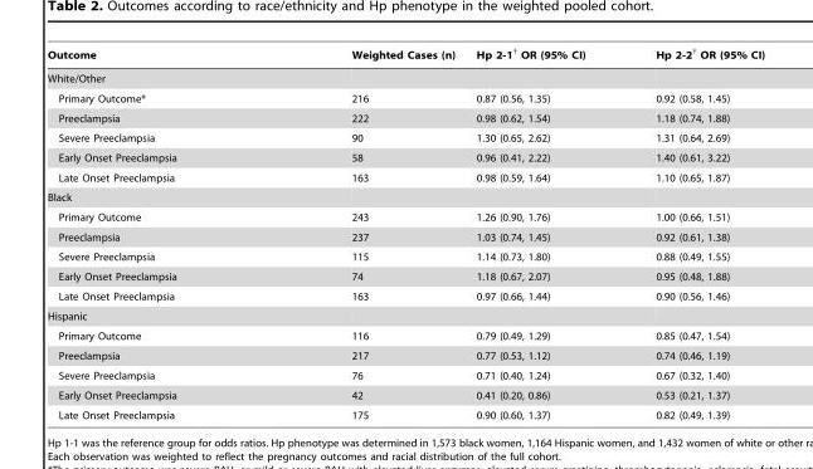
<table><thead><tr><td>Outcome</td><td>Weighted Cases (n)</td><td>Hp 2-1† OR (95% CI)</td><td>Hp 2-2† OR (95% CI)</td></tr></thead><tbody><tr><td colspan="4">White/Other</td></tr><tr><td>Primary Outcome*</td><td>216</td><td>0.87 (0.56, 1.35)</td><td>0.92 (0.58, 1.45)</td></tr><tr><td>Preeclampsia</td><td>222</td><td>0.98 (0.62, 1.54)</td><td>1.18 (0.74, 1.88)</td></tr><tr><td>Severe Preeclampsia</td><td>90</td><td>1.30 (0.65, 2.62)</td><td>1.31 (0.64, 2.69)</td></tr><tr><td>Early Onset Preeclampsia</td><td>58</td><td>0.96 (0.41, 2.22)</td><td>1.40 (0.61, 3.22)</td></tr><tr><td>Late Onset Preeclampsia</td><td>163</td><td>0.98 (0.59, 1.64)</td><td>1.10 (0.65, 1.87)</td></tr><tr><td colspan="4">Black</td></tr><tr><td>Primary Outcome</td><td>243</td><td>1.26 (0.90, 1.76)</td><td>1.00 (0.66, 1.51)</td></tr><tr><td>Preeclampsia</td><td>237</td><td>1.03 (0.74, 1.45)</td><td>0.92 (0.61, 1.38)</td></tr><tr><td>Severe Preeclampsia</td><td>115</td><td>1.14 (0.73, 1.80)</td><td>0.88 (0.49, 1.55)</td></tr><tr><td>Early Onset Preeclampsia</td><td>74</td><td>1.18 (0.67, 2.07)</td><td>0.95 (0.48, 1.88)</td></tr><tr><td>Late Onset Preeclampsia</td><td>163</td><td>0.97 (0.66, 1.44)</td><td>0.90 (0.56, 1.46)</td></tr><tr><td colspan="4">Hispanic</td></tr><tr><td>Primary Outcome</td><td>116</td><td>0.79 (0.49, 1.29)</td><td>0.85 (0.47, 1.54)</td></tr><tr><td>Preeclampsia</td><td>217</td><td>0.77 (0.53, 1.12)</td><td>0.74 (0.46, 1.19)</td></tr><tr><td>Severe Preeclampsia</td><td>76</td><td>0.71 (0.40, 1.24)</td><td>0.67 (0.32, 1.40)</td></tr><tr><td>Early Onset Preeclampsia</td><td>42</td><td>0.41 (0.20, 0.86)</td><td>0.53 (0.21, 1.37)</td></tr><tr><td>Late Onset Preeclampsia</td><td>175</td><td>0.90 (0.60, 1.37)</td><td>0.82 (0.49, 1.39)</td></tr></tbody></table>